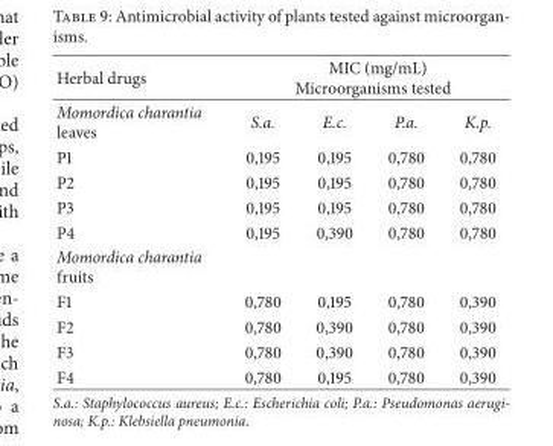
<table><thead><tr><td rowspan="2">Herbal drugs Momordica charantia leaves</td><td colspan="4">MIC (mg/mL) Microorganisms tested</td></tr><tr><td>S.a.</td><td>E.c.</td><td>P.a.</td><td>K.p.</td></tr></thead><tbody><tr><td>P1</td><td>0,195</td><td>0,195</td><td>0,780</td><td>0,780</td></tr><tr><td>P2</td><td>0,195</td><td>0,195</td><td>0,780</td><td>0,780</td></tr><tr><td>P3</td><td>0,195</td><td>0,195</td><td>0,780</td><td>0,780</td></tr><tr><td>P4</td><td>0,195</td><td>0,390</td><td>0,780</td><td>0,780</td></tr><tr><td colspan="5">Momordica charantia fruits</td></tr><tr><td>F1</td><td>0,780</td><td>0,195</td><td>0,780</td><td>0,390</td></tr><tr><td>F2</td><td>0,780</td><td>0,390</td><td>0,780</td><td>0,390</td></tr><tr><td>F3</td><td>0,780</td><td>0,390</td><td>0,780</td><td>0,390</td></tr><tr><td>F4</td><td>0,780</td><td>0,195</td><td>0,780</td><td>0,390</td></tr></tbody></table>